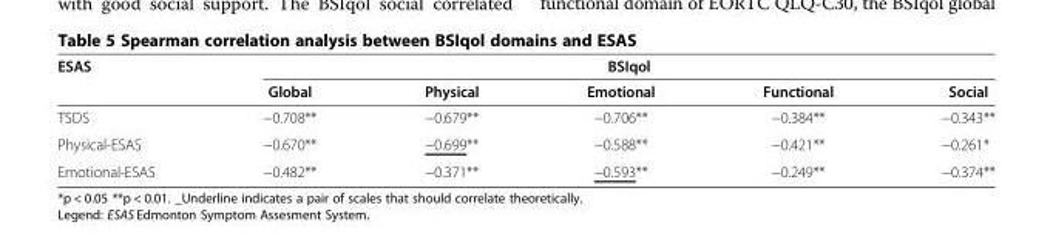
<table><thead><tr><td rowspan="2">ESAS</td><td colspan="5">BSIqol</td></tr><tr><td>Global</td><td>Physical</td><td>Emotional</td><td>Functional</td><td>Social</td></tr></thead><tbody><tr><td>TSDS</td><td>−0.708**</td><td>−0.679**</td><td>−0.706**</td><td>−0.384**</td><td>−0.343**</td></tr><tr><td>Physical-ESAS</td><td>−0.670**</td><td>−0.699**</td><td>−0.588**</td><td>−0.421**</td><td>−0.261*</td></tr><tr><td>Emotional-ESAS</td><td>−0.482**</td><td>−0.371**</td><td>−0.593**</td><td>−0.249**</td><td>−0.374**</td></tr></tbody></table>